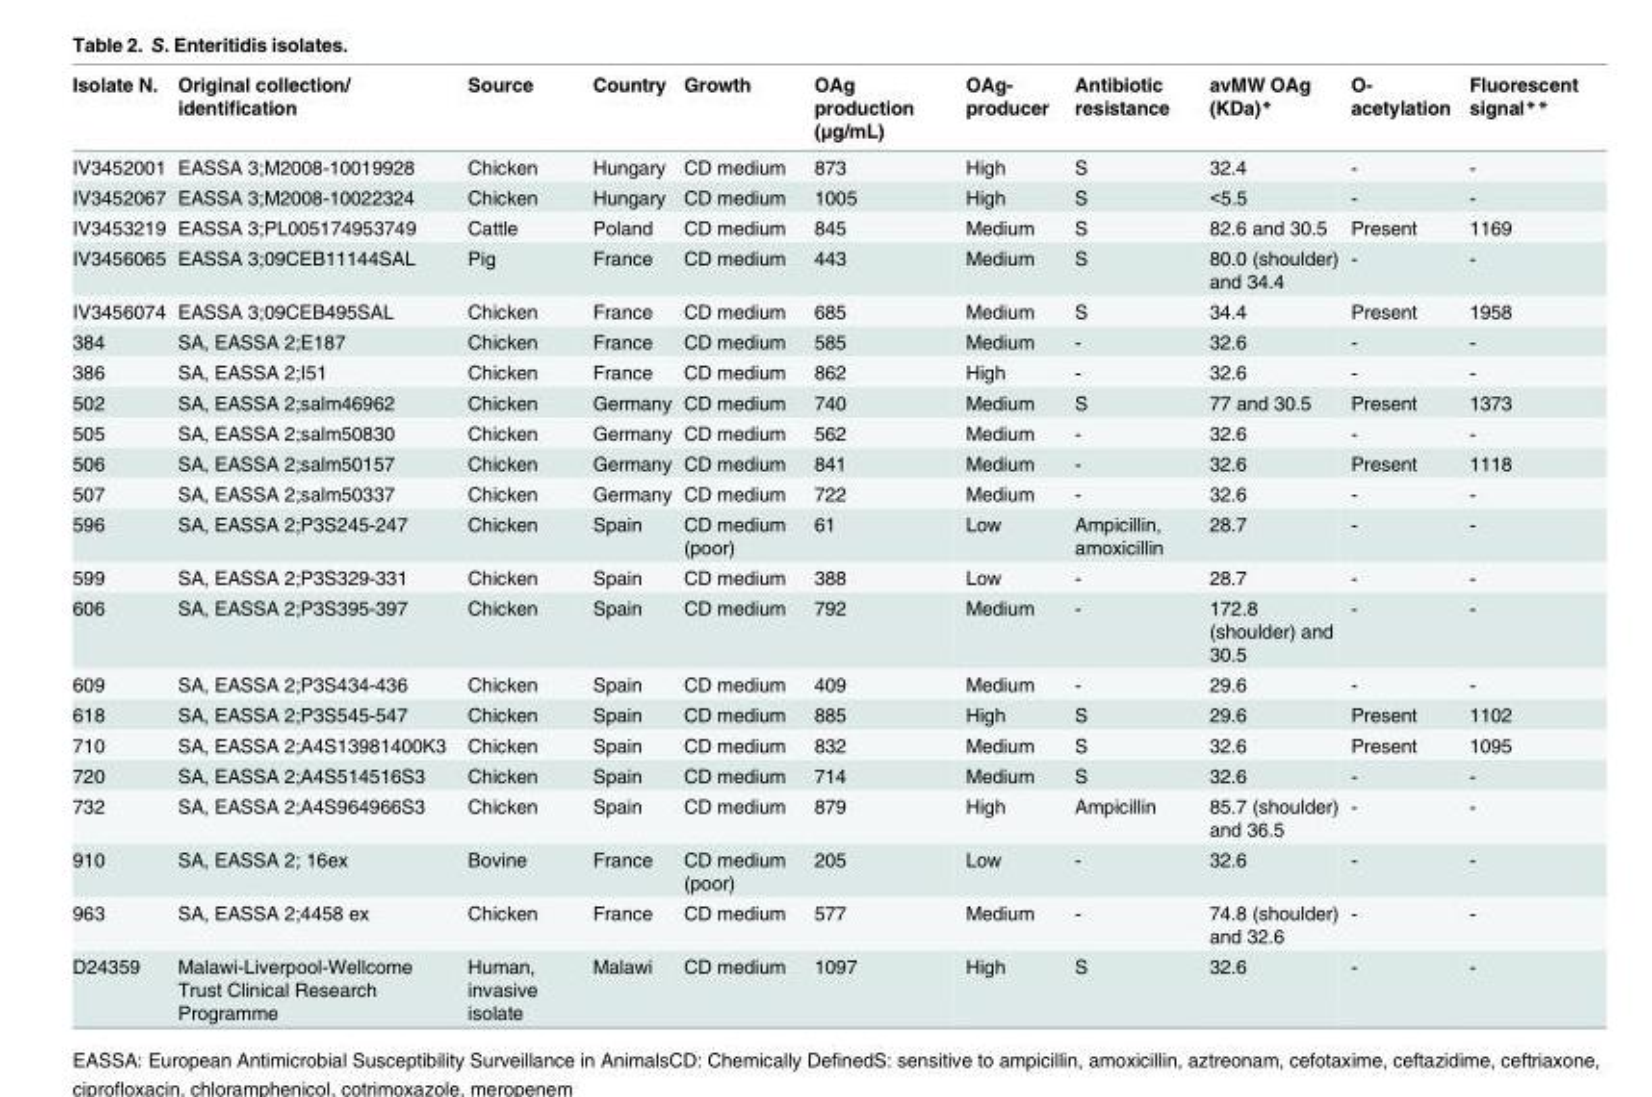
<table><thead><tr><td>Isolate N.</td><td>Original collection/ identification</td><td>Source</td><td>Country</td><td>Growth</td><td>OAg production (μg/mL)</td><td>OAg- producer</td><td>Antibiotic resistance</td><td>avMW OAg (KDa)*</td><td>O- acetylation</td><td>Fluorescent signal**</td></tr></thead><tbody><tr><td>IV3452001</td><td>EASSA 3;M2008-10019928</td><td>Chicken</td><td>Hungary</td><td>CD medium</td><td>873</td><td>High</td><td>S</td><td>32.4</td><td>-</td><td>-</td></tr><tr><td>IV3452067</td><td>EASSA 3;M2008-10022324</td><td>Chicken</td><td>Hungary</td><td>CD medium</td><td>1005</td><td>High</td><td>S</td><td>&lt;5.5</td><td>-</td><td>-</td></tr><tr><td>IV3453219</td><td>EASSA 3;PL005174953749</td><td>Cattle</td><td>Poland</td><td>CD medium</td><td>845</td><td>Medium</td><td>S</td><td>82.6 and 30.5</td><td>Present</td><td>1169</td></tr><tr><td>IV3456065</td><td>EASSA 3;09CEB11144SAL</td><td>Pig</td><td>France</td><td>CD medium</td><td>443</td><td>Medium</td><td>S</td><td>80.0 (shoulder) and 34.4</td><td>-</td><td>-</td></tr><tr><td>IV3456074</td><td>EASSA 3;09CEB495SAL</td><td>Chicken</td><td>France</td><td>CD medium</td><td>685</td><td>Medium</td><td>S</td><td>34.4</td><td>Present</td><td>1958</td></tr><tr><td>384</td><td>SA, EASSA 2;E187</td><td>Chicken</td><td>France</td><td>CD medium</td><td>585</td><td>Medium</td><td>-</td><td>32.6</td><td>-</td><td>-</td></tr><tr><td>386</td><td>SA, EASSA 2;I51</td><td>Chicken</td><td>France</td><td>CD medium</td><td>862</td><td>High</td><td>-</td><td>32.6</td><td>-</td><td>-</td></tr><tr><td>502</td><td>SA, EASSA 2;salm46962</td><td>Chicken</td><td>Germany</td><td>CD medium</td><td>740</td><td>Medium</td><td>S</td><td>77 and 30.5</td><td>Present</td><td>1373</td></tr><tr><td>505</td><td>SA, EASSA 2;salm50830</td><td>Chicken</td><td>Germany</td><td>CD medium</td><td>562</td><td>Medium</td><td>-</td><td>32.6</td><td>-</td><td>-</td></tr><tr><td>506</td><td>SA, EASSA 2;salm50157</td><td>Chicken</td><td>Germany</td><td>CD medium</td><td>841</td><td>Medium</td><td>-</td><td>32.6</td><td>Present</td><td>1118</td></tr><tr><td>507</td><td>SA, EASSA 2;salm50337</td><td>Chicken</td><td>Germany</td><td>CD medium</td><td>722</td><td>Medium</td><td>-</td><td>32.6</td><td>-</td><td>-</td></tr><tr><td>596</td><td>SA, EASSA 2;P3S245-247</td><td>Chicken</td><td>Spain</td><td>CD medium (poor)</td><td>61</td><td>Low</td><td>Ampicillin, amoxicillin</td><td>28.7</td><td>-</td><td>-</td></tr><tr><td>599</td><td>SA, EASSA 2;P3S329-331</td><td>Chicken</td><td>Spain</td><td>CD medium</td><td>388</td><td>Low</td><td>-</td><td>28.7</td><td>-</td><td>-</td></tr><tr><td>606</td><td>SA, EASSA 2;P3S395-397</td><td>Chicken</td><td>Spain</td><td>CD medium</td><td>792</td><td>Medium</td><td>-</td><td>172.8 (shoulder) and 30.5</td><td>-</td><td>-</td></tr><tr><td>609</td><td>SA, EASSA 2;P3S434-436</td><td>Chicken</td><td>Spain</td><td>CD medium</td><td>409</td><td>Medium</td><td>-</td><td>29.6</td><td>-</td><td>-</td></tr><tr><td>618</td><td>SA, EASSA 2;P3S545-547</td><td>Chicken</td><td>Spain</td><td>CD medium</td><td>885</td><td>High</td><td>S</td><td>29.6</td><td>Present</td><td>1102</td></tr><tr><td>710</td><td>SA, EASSA 2;A4S13981400K3</td><td>Chicken</td><td>Spain</td><td>CD medium</td><td>832</td><td>Medium</td><td>S</td><td>32.6</td><td>Present</td><td>1095</td></tr><tr><td>720</td><td>SA, EASSA 2;A4S514516S3</td><td>Chicken</td><td>Spain</td><td>CD medium</td><td>714</td><td>Medium</td><td>S</td><td>32.6</td><td>-</td><td>-</td></tr><tr><td>732</td><td>SA, EASSA 2;A4S964966S3</td><td>Chicken</td><td>Spain</td><td>CD medium</td><td>879</td><td>High</td><td>Ampicillin</td><td>85.7 (shoulder) and 36.5</td><td>-</td><td>-</td></tr><tr><td>910</td><td>SA, EASSA 2; 16ex</td><td>Bovine</td><td>France</td><td>CD medium (poor)</td><td>205</td><td>Low</td><td>-</td><td>32.6</td><td>-</td><td>-</td></tr><tr><td>963</td><td>SA, EASSA 2;4458 ex</td><td>Chicken</td><td>France</td><td>CD medium</td><td>577</td><td>Medium</td><td>-</td><td>74.8 (shoulder) and 32.6</td><td>-</td><td>-</td></tr><tr><td>D24359</td><td>Malawi-Liverpool-Wellcome Trust Clinical Research Programme</td><td>Human, invasive isolate</td><td>Malawi</td><td>CD medium</td><td>1097</td><td>High</td><td>S</td><td>32.6</td><td>-</td><td>-</td></tr></tbody></table>